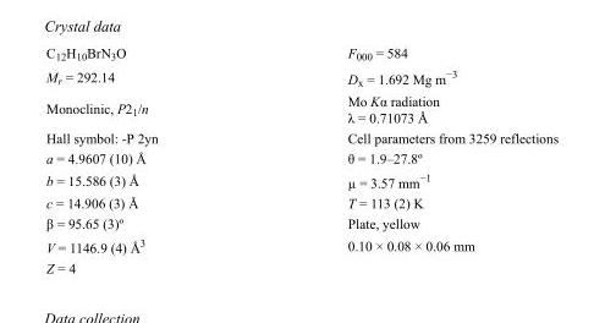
<table><tbody><tr><td>C<sub>12</sub>H<sub>10</sub>BrN<sub>3</sub>O</td><td>F<sub>000</sub> = 584</td></tr><tr><td>M<sub>r</sub> = 292.14</td><td>D<sub>x</sub> = 1.692 Mg m<sup>−3</sup></td></tr><tr><td>Monoclinic, P2<sub>1</sub>/n</td><td>Mo Kα radiation λ = 0.71073 Å</td></tr><tr><td>Hall symbol: -P 2yn</td><td>Cell parameters from 3259 reflections</td></tr><tr><td>a = 4.9607 (10) Å</td><td>θ = 1.9–27.8º</td></tr><tr><td>b = 15.586 (3) Å</td><td>µ = 3.57 mm<sup>−1</sup></td></tr><tr><td>c = 14.906 (3) Å</td><td>T = 113 (2) K</td></tr><tr><td>β = 95.65 (3)º</td><td>Plate, yellow</td></tr><tr><td>V = 1146.9 (4) Å<sup>3</sup></td><td>0.10 × 0.08 × 0.06 mm</td></tr><tr><td>Z = 4</td><td></td></tr></tbody></table>